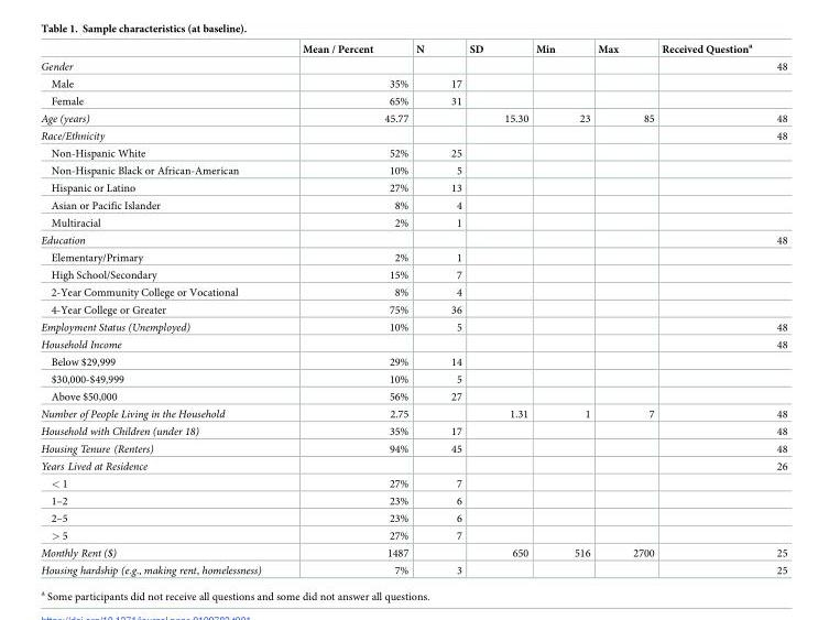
<table><thead><tr><td></td><td>Mean / Percent</td><td>N</td><td>SD</td><td>Min</td><td>Max</td><td>Received Question<sup>a</sup></td></tr></thead><tbody><tr><td>Gender</td><td></td><td></td><td></td><td></td><td></td><td>48</td></tr><tr><td>Male</td><td>35%</td><td>17</td><td></td><td></td><td></td><td></td></tr><tr><td>Female</td><td>65%</td><td>31</td><td></td><td></td><td></td><td></td></tr><tr><td>Age (years)</td><td>45.77</td><td></td><td>15.30</td><td>23</td><td>85</td><td>48</td></tr><tr><td>Race/Ethnicity</td><td></td><td></td><td></td><td></td><td></td><td>48</td></tr><tr><td>Non-Hispanic White</td><td>52%</td><td>25</td><td></td><td></td><td></td><td></td></tr><tr><td>Non-Hispanic Black or African-American</td><td>10%</td><td>5</td><td></td><td></td><td></td><td></td></tr><tr><td>Hispanic or Latino</td><td>27%</td><td>13</td><td></td><td></td><td></td><td></td></tr><tr><td>Asian or Pacific Islander</td><td>8%</td><td>4</td><td></td><td></td><td></td><td></td></tr><tr><td>Multiracial</td><td>2%</td><td>1</td><td></td><td></td><td></td><td></td></tr><tr><td>Education</td><td></td><td></td><td></td><td></td><td></td><td>48</td></tr><tr><td>Elementary/Primary</td><td>2%</td><td>1</td><td></td><td></td><td></td><td></td></tr><tr><td>High School/Secondary</td><td>15%</td><td>7</td><td></td><td></td><td></td><td></td></tr><tr><td>2-Year Community College or Vocational</td><td>8%</td><td>4</td><td></td><td></td><td></td><td></td></tr><tr><td>4-Year College or Greater</td><td>75%</td><td>36</td><td></td><td></td><td></td><td></td></tr><tr><td>Employment Status (Unemployed)</td><td>10%</td><td>5</td><td></td><td></td><td></td><td>48</td></tr><tr><td>Household Income</td><td></td><td></td><td></td><td></td><td></td><td>48</td></tr><tr><td>Below $29,999</td><td>29%</td><td>14</td><td></td><td></td><td></td><td></td></tr><tr><td>$30,000-$49,999</td><td>10%</td><td>5</td><td></td><td></td><td></td><td></td></tr><tr><td>Above $50,000</td><td>56%</td><td>27</td><td></td><td></td><td></td><td></td></tr><tr><td>Number of People Living in the Household</td><td>2.75</td><td></td><td>1.31</td><td>1</td><td>7</td><td>48</td></tr><tr><td>Household with Children (under 18)</td><td>35%</td><td>17</td><td></td><td></td><td></td><td>48</td></tr><tr><td>Housing Tenure (Renters)</td><td>94%</td><td>45</td><td></td><td></td><td></td><td>48</td></tr><tr><td>Years Lived at Residence</td><td></td><td></td><td></td><td></td><td></td><td>26</td></tr><tr><td>&lt; 1</td><td>27%</td><td>7</td><td></td><td></td><td></td><td></td></tr><tr><td>1–2</td><td>23%</td><td>6</td><td></td><td></td><td></td><td></td></tr><tr><td>2–5</td><td>23%</td><td>6</td><td></td><td></td><td></td><td></td></tr><tr><td>&gt; 5</td><td>27%</td><td>7</td><td></td><td></td><td></td><td></td></tr><tr><td>Monthly Rent ($)</td><td>1487</td><td></td><td>650</td><td>516</td><td>2700</td><td>25</td></tr><tr><td>Housing hardship (e.g., making rent, homelessness)</td><td>7%</td><td>3</td><td></td><td></td><td></td><td>25</td></tr></tbody></table>